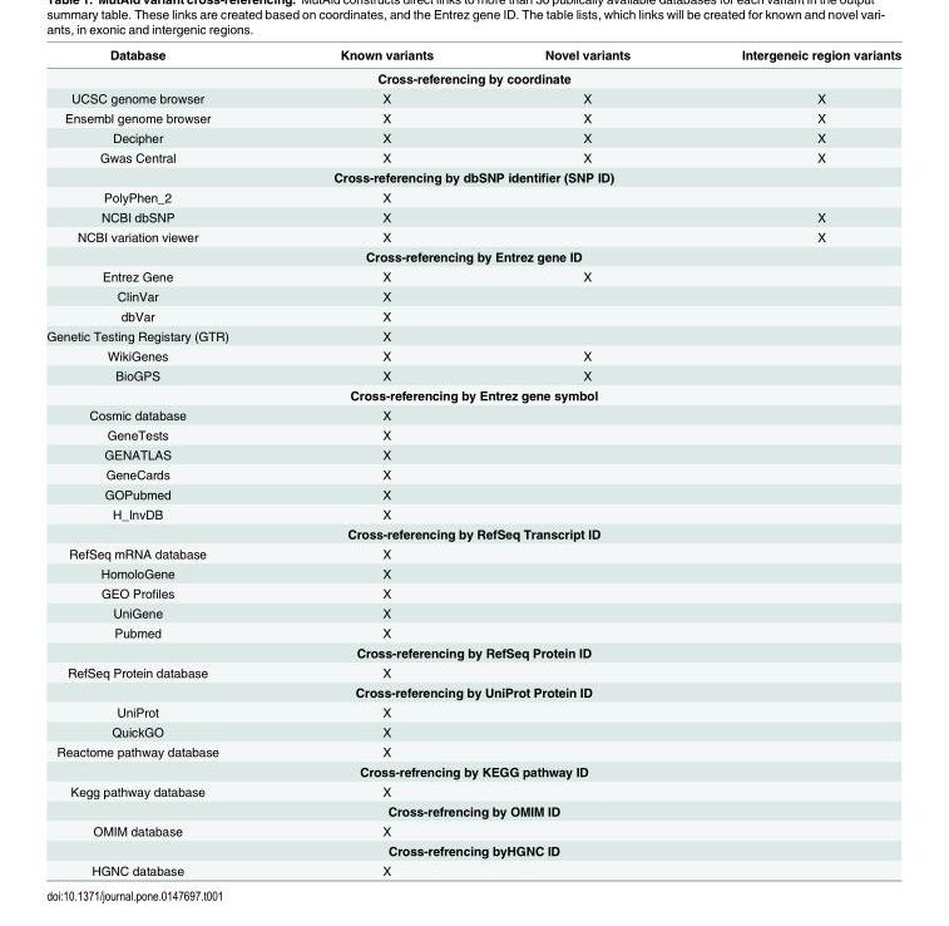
<table><thead><tr><td>Database</td><td>Known variants</td><td>Novel variants</td><td>Intergeneic region variants</td></tr></thead><tbody><tr><td colspan="4">Cross-referencing by coordinate</td></tr><tr><td>UCSC genome browser</td><td>X</td><td>X</td><td>X</td></tr><tr><td>Ensembl genome browser</td><td>X</td><td>X</td><td>X</td></tr><tr><td>Decipher</td><td>X</td><td>X</td><td>X</td></tr><tr><td>Gwas Central</td><td>X</td><td>X</td><td>X</td></tr><tr><td colspan="4">Cross-referencing by dbSNP identifier (SNP ID)</td></tr><tr><td>PolyPhen_2</td><td>X</td><td></td><td></td></tr><tr><td>NCBI dbSNP</td><td>X</td><td></td><td>X</td></tr><tr><td>NCBI variation viewer</td><td>X</td><td></td><td>X</td></tr><tr><td colspan="4">Cross-referencing by Entrez gene ID</td></tr><tr><td>Entrez Gene</td><td>X</td><td>X</td><td></td></tr><tr><td>ClinVar</td><td>X</td><td></td><td></td></tr><tr><td>dbVar</td><td>X</td><td></td><td></td></tr><tr><td>Genetic Testing Registary (GTR)</td><td>X</td><td></td><td></td></tr><tr><td>WikiGenes</td><td>X</td><td>X</td><td></td></tr><tr><td>BioGPS</td><td>X</td><td>X</td><td></td></tr><tr><td colspan="4">Cross-referencing by Entrez gene symbol</td></tr><tr><td>Cosmic database</td><td>X</td><td></td><td></td></tr><tr><td>GeneTests</td><td>X</td><td></td><td></td></tr><tr><td>GENATLAS</td><td>X</td><td></td><td></td></tr><tr><td>GeneCards</td><td>X</td><td></td><td></td></tr><tr><td>GOPubmed</td><td>X</td><td></td><td></td></tr><tr><td>H_InvDB</td><td>X</td><td></td><td></td></tr><tr><td colspan="4">Cross-referencing by RefSeq Transcript ID</td></tr><tr><td>RefSeq mRNA database</td><td>X</td><td></td><td></td></tr><tr><td>HomoloGene</td><td>X</td><td></td><td></td></tr><tr><td>GEO Profiles</td><td>X</td><td></td><td></td></tr><tr><td>UniGene</td><td>X</td><td></td><td></td></tr><tr><td>Pubmed</td><td>X</td><td></td><td></td></tr><tr><td colspan="4">Cross-referencing by RefSeq Protein ID</td></tr><tr><td>RefSeq Protein database</td><td>X</td><td></td><td></td></tr><tr><td colspan="4">Cross-referencing by UniProt Protein ID</td></tr><tr><td>UniProt</td><td>X</td><td></td><td></td></tr><tr><td>QuickGO</td><td>X</td><td></td><td></td></tr><tr><td>Reactome pathway database</td><td>X</td><td></td><td></td></tr><tr><td colspan="4">Cross-refrencing by KEGG pathway ID</td></tr><tr><td>Kegg pathway database</td><td>X</td><td></td><td></td></tr><tr><td colspan="4">Cross-refrencing by OMIM ID</td></tr><tr><td>OMIM database</td><td>X</td><td></td><td></td></tr><tr><td colspan="4">Cross-refrencing byHGNC ID</td></tr><tr><td>HGNC database</td><td>X</td><td></td><td></td></tr></tbody></table>